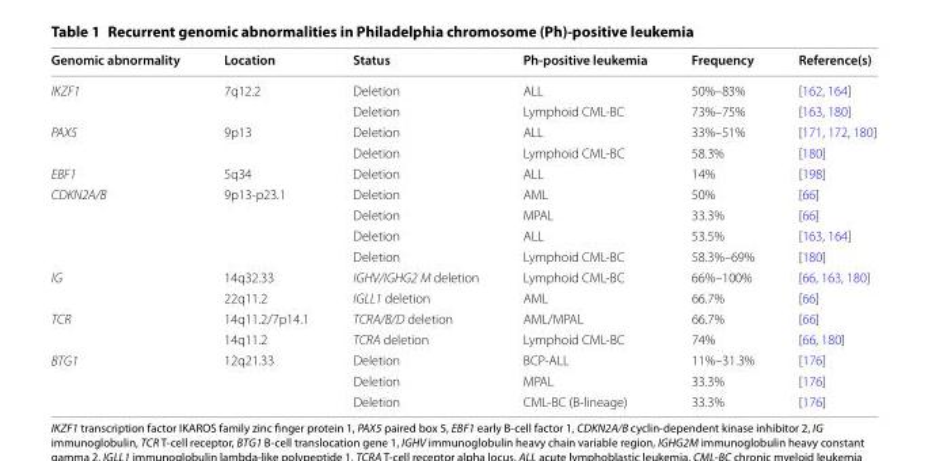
<table><thead><tr><td>Genomic abnormality</td><td>Location</td><td>Status</td><td>Ph‑positive leukemia</td><td>Frequency</td><td>Reference(s)</td></tr></thead><tbody><tr><td rowspan="2">IKZF1</td><td rowspan="2">7q12.2</td><td>Deletion</td><td>ALL</td><td>50%–83%</td><td>[162, 164]</td></tr><tr><td>Deletion</td><td>Lymphoid CML‑BC</td><td>73%–75%</td><td>[163, 180]</td></tr><tr><td rowspan="2">PAX5</td><td rowspan="2">9p13</td><td>Deletion</td><td>ALL</td><td>33%–51%</td><td>[171, 172, 180]</td></tr><tr><td>Deletion</td><td>Lymphoid CML‑BC</td><td>58.3%</td><td>[180]</td></tr><tr><td>EBF1</td><td>5q34</td><td>Deletion</td><td>ALL</td><td>14%</td><td>[198]</td></tr><tr><td rowspan="4">CDKN2A/B</td><td rowspan="4">9p13‑p23.1</td><td>Deletion</td><td>AML</td><td>50%</td><td>[66]</td></tr><tr><td>Deletion</td><td>MPAL</td><td>33.3%</td><td>[66]</td></tr><tr><td>Deletion</td><td>ALL</td><td>53.5%</td><td>[163, 164]</td></tr><tr><td>Deletion</td><td>Lymphoid CML‑BC</td><td>58.3%–69%</td><td>[180]</td></tr><tr><td rowspan="2">IG</td><td>14q32.33</td><td>IGHV/IGHG2 M deletion</td><td>Lymphoid CML‑BC</td><td>66%–100%</td><td>[66, 163, 180]</td></tr><tr><td>22q11.2</td><td>IGLL1 deletion</td><td>AML</td><td>66.7%</td><td>[66]</td></tr><tr><td rowspan="2">TCR</td><td>14q11.2/7p14.1</td><td>TCRA/B/D deletion</td><td>AML/MPAL</td><td>66.7%</td><td>[66]</td></tr><tr><td>14q11.2</td><td>TCRA deletion</td><td>Lymphoid CML‑BC</td><td>74%</td><td>[66, 180]</td></tr><tr><td rowspan="3">BTG1</td><td>12q21.33</td><td>Deletion</td><td>BCP‑ALL</td><td>11%–31.3%</td><td>[176]</td></tr><tr><td></td><td>Deletion</td><td>MPAL</td><td>33.3%</td><td>[176]</td></tr><tr><td></td><td>Deletion</td><td>CML‑BC (B‑lineage)</td><td>33.3%</td><td>[176]</td></tr></tbody></table>